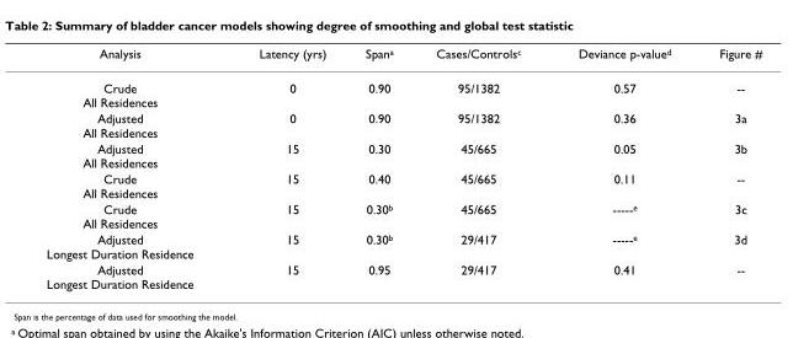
<table><thead><tr><td>Analysis</td><td>Latency (yrs)</td><td>Span<sup>a</sup></td><td>Cases/Controls<sup>c</sup></td><td>Deviance p-value<sup>d</sup></td><td>Figure #</td></tr></thead><tbody><tr><td>Crude All Residences</td><td>0</td><td>0.90</td><td>95/1382</td><td>0.57</td><td>--</td></tr><tr><td>Adjusted All Residences</td><td>0</td><td>0.90</td><td>95/1382</td><td>0.36</td><td>3a</td></tr><tr><td>Adjusted All Residences</td><td>15</td><td>0.30</td><td>45/665</td><td>0.05</td><td>3b</td></tr><tr><td>Crude All Residences</td><td>15</td><td>0.40</td><td>45/665</td><td>0.11</td><td>--</td></tr><tr><td>Crude All Residences</td><td>15</td><td>0.30<sup>b</sup></td><td>45/665</td><td>-----<sup>e</sup></td><td>3c</td></tr><tr><td>Adjusted Longest Duration Residence</td><td>15</td><td>0.30<sup>b</sup></td><td>29/417</td><td>-----<sup>e</sup></td><td>3d</td></tr><tr><td>Adjusted Longest Duration Residence</td><td>15</td><td>0.95</td><td>29/417</td><td>0.41</td><td>--</td></tr></tbody></table>